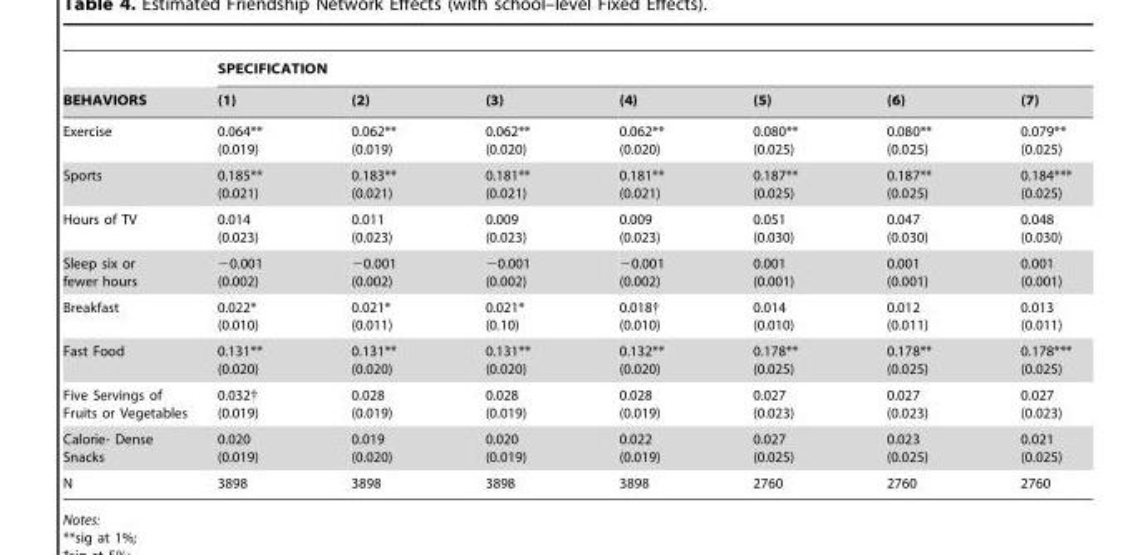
<table><thead><tr><td rowspan="2">BEHAVIORS</td><td colspan="7">SPECIFICATION</td></tr><tr><td>(1)</td><td>(2)</td><td>(3)</td><td>(4)</td><td>(5)</td><td>(6)</td><td>(7)</td></tr></thead><tbody><tr><td>Exercise</td><td>0.064** (0.019)</td><td>0.062** (0.019)</td><td>0.062** (0.020)</td><td>0.062** (0.020)</td><td>0.080** (0.025)</td><td>0.080** (0.025)</td><td>0.079** (0.025)</td></tr><tr><td>Sports</td><td>0.185** (0.021)</td><td>0.183** (0.021)</td><td>0.181** (0.021)</td><td>0.181** (0.021)</td><td>0.187** (0.025)</td><td>0.187** (0.025)</td><td>0.184*** (0.025)</td></tr><tr><td>Hours of TV</td><td>0.014 (0.023)</td><td>0.011 (0.023)</td><td>0.009 (0.023)</td><td>0.009 (0.023)</td><td>0.051 (0.030)</td><td>0.047 (0.030)</td><td>0.048 (0.030)</td></tr><tr><td>Sleep six or fewer hours</td><td>−0.001 (0.002)</td><td>−0.001 (0.002)</td><td>−0.001 (0.002)</td><td>−0.001 (0.002)</td><td>0.001 (0.001)</td><td>0.001 (0.001)</td><td>0.001 (0.001)</td></tr><tr><td>Breakfast</td><td>0.022* (0.010)</td><td>0.021* (0.011)</td><td>0.021* (0.10)</td><td>0.018† (0.010)</td><td>0.014 (0.010)</td><td>0.012 (0.011)</td><td>0.013 (0.011)</td></tr><tr><td>Fast Food</td><td>0.131** (0.020)</td><td>0.131** (0.020)</td><td>0.131** (0.020)</td><td>0.132** (0.020)</td><td>0.178** (0.025)</td><td>0.178** (0.025)</td><td>0.178*** (0.025)</td></tr><tr><td>Five Servings of Fruits or Vegetables</td><td>0.032† (0.019)</td><td>0.028 (0.019)</td><td>0.028 (0.019)</td><td>0.028 (0.019)</td><td>0.027 (0.023)</td><td>0.027 (0.023)</td><td>0.027 (0.023)</td></tr><tr><td>Calorie- Dense Snacks</td><td>0.020 (0.019)</td><td>0.019 (0.020)</td><td>0.020 (0.019)</td><td>0.022 (0.019)</td><td>0.027 (0.025)</td><td>0.023 (0.025)</td><td>0.021 (0.025)</td></tr><tr><td>N</td><td>3898</td><td>3898</td><td>3898</td><td>3898</td><td>2760</td><td>2760</td><td>2760</td></tr></tbody></table>